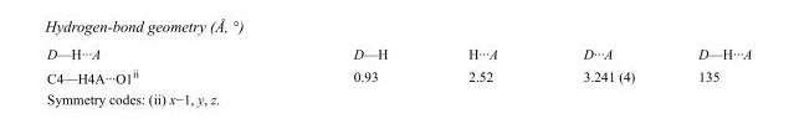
<table><tbody><tr><td>D—H···A</td><td>D—H</td><td>H···A</td><td>D···A</td><td>D—H···A</td></tr><tr><td>C4—H4A···O1<sup>ii</sup></td><td>0.93</td><td>2.52</td><td>3.241 (4)</td><td>135</td></tr></tbody></table>